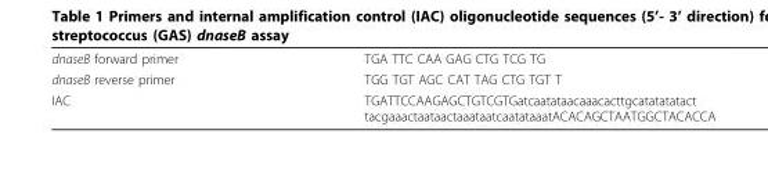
<table><tbody><tr><td>dnaseB forward primer</td><td>TGA TTC CAA GAG CTG TCG TG</td></tr><tr><td>dnaseB reverse primer</td><td>TGG TGT AGC CAT TAG CTG TGT T</td></tr><tr><td>IAC</td><td>TGATTCCAAGAGCTGTCGTGatcaatataacaaacacttgcatatatatact tacgaaactaataactaaataatcaatataaatACACAGCTAATGGCTACACCA</td></tr></tbody></table>